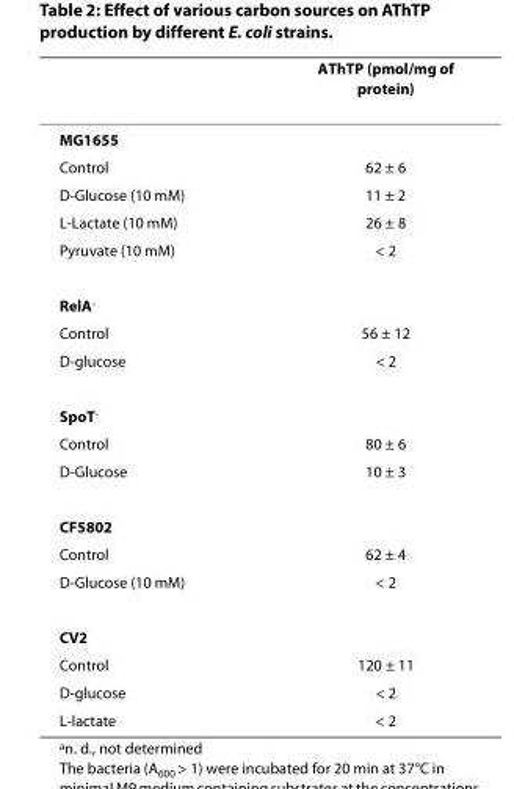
<table><thead><tr><td></td><td>AThTP (pmol/mg of protein)</td></tr></thead><tbody><tr><td colspan="2">MG1655</td></tr><tr><td>Control</td><td>62 ± 6</td></tr><tr><td>D-Glucose (10 mM)</td><td>11 ± 2</td></tr><tr><td>L-Lactate (10 mM)</td><td>26 ± 8</td></tr><tr><td>Pyruvate (10 mM)</td><td>&lt; 2</td></tr><tr><td colspan="2">RelA<sup>-</sup></td></tr><tr><td>Control</td><td>56 ± 12</td></tr><tr><td>D-glucose</td><td>&lt; 2</td></tr><tr><td colspan="2">SpoT<sup>-</sup></td></tr><tr><td>Control</td><td>80 ± 6</td></tr><tr><td>D-Glucose</td><td>10 ± 3</td></tr><tr><td colspan="2">CF5802</td></tr><tr><td>Control</td><td>62 ± 4</td></tr><tr><td>D-Glucose (10 mM)</td><td>&lt; 2</td></tr><tr><td colspan="2">CV2</td></tr><tr><td>Control</td><td>120 ± 11</td></tr><tr><td>D-glucose</td><td>&lt; 2</td></tr><tr><td>L-lactate</td><td>&lt; 2</td></tr></tbody></table>